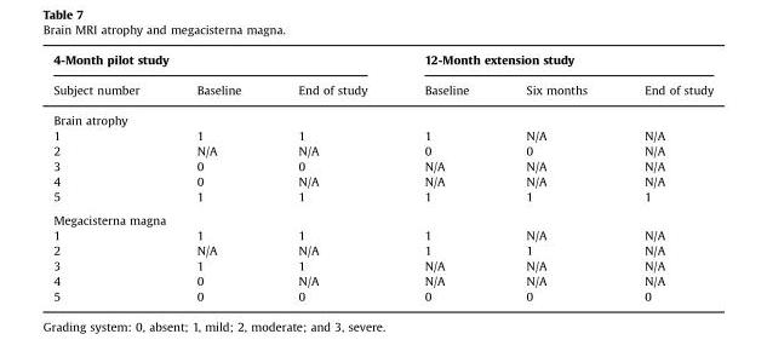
<table><thead><tr><td colspan="3">4-Month pilot study</td><td colspan="3">12-Month extension study</td></tr><tr><td>Subject number</td><td>Baseline</td><td>End of study</td><td>Baseline</td><td>Six months</td><td>End of study</td></tr></thead><tbody><tr><td colspan="6">Brain atrophy</td></tr><tr><td>1</td><td>1</td><td>1</td><td>1</td><td>N/A</td><td>N/A</td></tr><tr><td>2</td><td>N/A</td><td>N/A</td><td>0</td><td>0</td><td>N/A</td></tr><tr><td>3</td><td>0</td><td>0</td><td>N/A</td><td>N/A</td><td>N/A</td></tr><tr><td>4</td><td>0</td><td>N/A</td><td>N/A</td><td>N/A</td><td>N/A</td></tr><tr><td>5</td><td>1</td><td>1</td><td>1</td><td>1</td><td>1</td></tr><tr><td colspan="6">Megacisterna magna</td></tr><tr><td>1</td><td>1</td><td>1</td><td>1</td><td>N/A</td><td>N/A</td></tr><tr><td>2</td><td>N/A</td><td>N/A</td><td>1</td><td>1</td><td>N/A</td></tr><tr><td>3</td><td>1</td><td>1</td><td>N/A</td><td>N/A</td><td>N/A</td></tr><tr><td>4</td><td>0</td><td>N/A</td><td>N/A</td><td>N/A</td><td>N/A</td></tr><tr><td>5</td><td>0</td><td>0</td><td>0</td><td>0</td><td>0</td></tr></tbody></table>